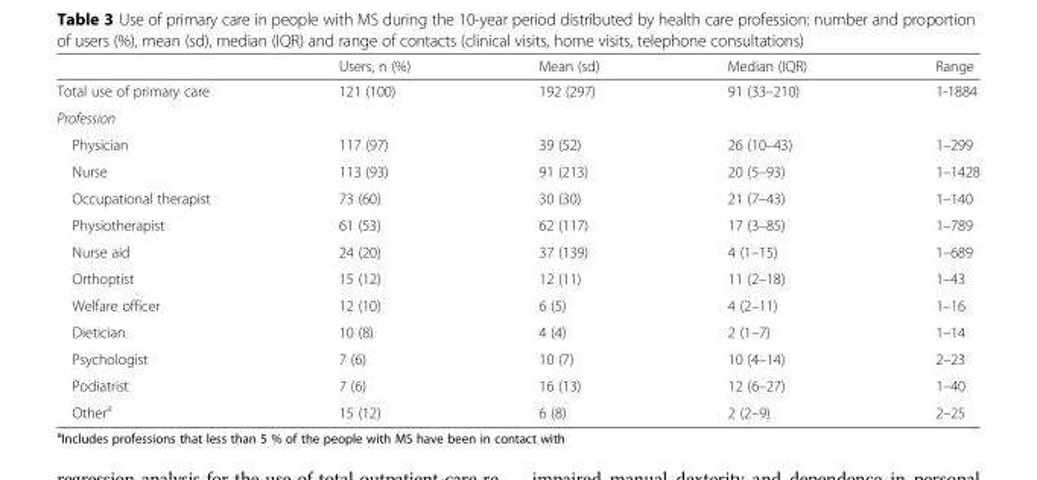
<table><thead><tr><td></td><td>Users, n (%)</td><td>Mean (sd)</td><td>Median (IQR)</td><td>Range</td></tr></thead><tbody><tr><td>Total use of primary care</td><td>121 (100)</td><td>192 (297)</td><td>91 (33–210)</td><td>1-1884</td></tr><tr><td colspan="5">Profession</td></tr><tr><td>Physician</td><td>117 (97)</td><td>39 (52)</td><td>26 (10–43)</td><td>1–299</td></tr><tr><td>Nurse</td><td>113 (93)</td><td>91 (213)</td><td>20 (5–93)</td><td>1–1428</td></tr><tr><td>Occupational therapist</td><td>73 (60)</td><td>30 (30)</td><td>21 (7–43)</td><td>1–140</td></tr><tr><td>Physiotherapist</td><td>61 (53)</td><td>62 (117)</td><td>17 (3–85)</td><td>1–789</td></tr><tr><td>Nurse aid</td><td>24 (20)</td><td>37 (139)</td><td>4 (1–15)</td><td>1–689</td></tr><tr><td>Orthoptist</td><td>15 (12)</td><td>12 (11)</td><td>11 (2–18)</td><td>1–43</td></tr><tr><td>Welfare officer</td><td>12 (10)</td><td>6 (5)</td><td>4 (2–11)</td><td>1–16</td></tr><tr><td>Dietician</td><td>10 (8)</td><td>4 (4)</td><td>2 (1–7)</td><td>1–14</td></tr><tr><td>Psychologist</td><td>7 (6)</td><td>10 (7)</td><td>10 (4–14)</td><td>2–23</td></tr><tr><td>Podiatrist</td><td>7 (6)</td><td>16 (13)</td><td>12 (6–27)</td><td>1–40</td></tr><tr><td>Other<sup>a</sup></td><td>15 (12)</td><td>6 (8)</td><td>2 (2–9)</td><td>2–25</td></tr></tbody></table>